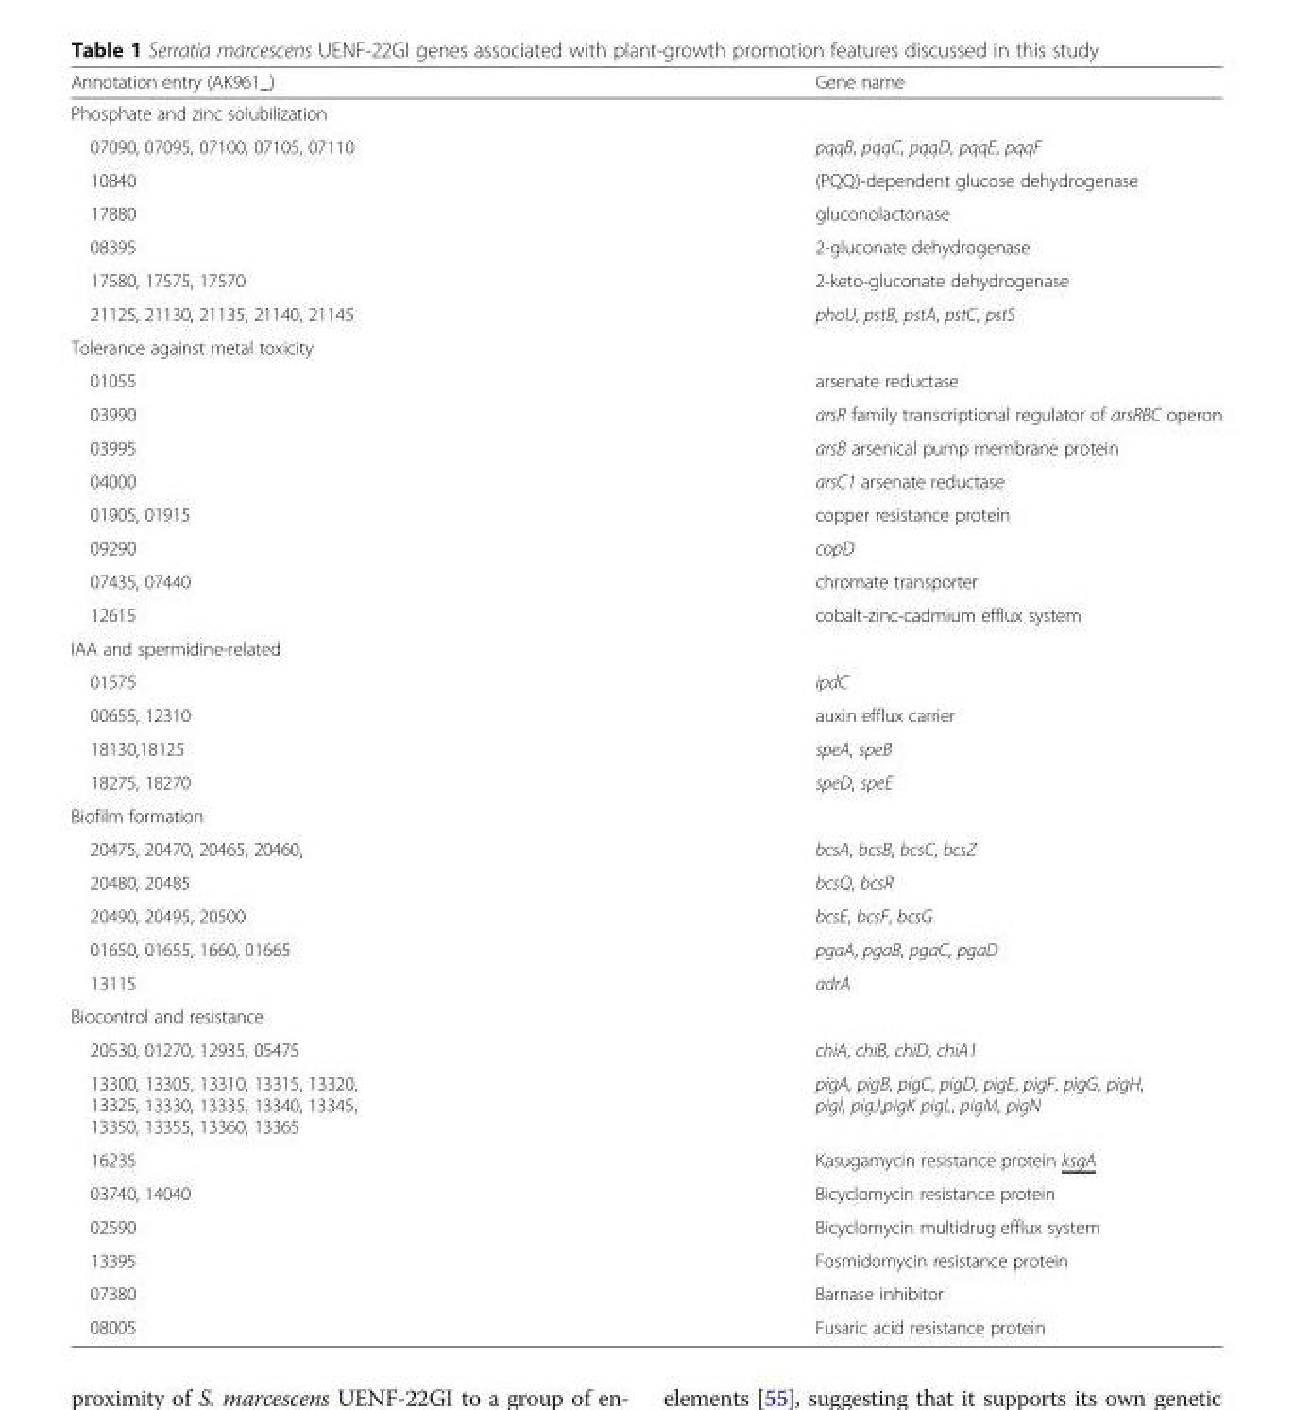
<table><thead><tr><td>Annotation entry (AK961_)</td><td>Gene name</td></tr></thead><tbody><tr><td colspan="2">Phosphate and zinc solubilization</td></tr><tr><td>07090, 07095, 07100, 07105, 07110</td><td>pqqB, pqqC, pqqD, pqqE, pqqF</td></tr><tr><td>10840</td><td>(PQQ)-dependent glucose dehydrogenase</td></tr><tr><td>17880</td><td>gluconolactonase</td></tr><tr><td>08395</td><td>2-gluconate dehydrogenase</td></tr><tr><td>17580, 17575, 17570</td><td>2-keto-gluconate dehydrogenase</td></tr><tr><td>21125, 21130, 21135, 21140, 21145</td><td>phoU, pstB, pstA, pstC, pstS</td></tr><tr><td colspan="2">Tolerance against metal toxicity</td></tr><tr><td>01055</td><td>arsenate reductase</td></tr><tr><td>03990</td><td>arsR family transcriptional regulator of arsRBC operon</td></tr><tr><td>03995</td><td>arsB arsenical pump membrane protein</td></tr><tr><td>04000</td><td>arsC1 arsenate reductase</td></tr><tr><td>01905, 01915</td><td>copper resistance protein</td></tr><tr><td>09290</td><td>copD</td></tr><tr><td>07435, 07440</td><td>chromate transporter</td></tr><tr><td>12615</td><td>cobalt-zinc-cadmium efflux system</td></tr><tr><td colspan="2">IAA and spermidine-related</td></tr><tr><td>01575</td><td>ipdC</td></tr><tr><td>00655, 12310</td><td>auxin efflux carrier</td></tr><tr><td>18130,18125</td><td>speA, speB</td></tr><tr><td>18275, 18270</td><td>speD, speE</td></tr><tr><td colspan="2">Biofilm formation</td></tr><tr><td>20475, 20470, 20465, 20460,</td><td>bcsA, bcsB, bcsC, bcsZ</td></tr><tr><td>20480, 20485</td><td>bcsQ, bcsR</td></tr><tr><td>20490, 20495, 20500</td><td>bcsE, bcsF, bcsG</td></tr><tr><td>01650, 01655, 1660, 01665</td><td>pgaA, pgaB, pgaC, pgaD</td></tr><tr><td>13115</td><td>adrA</td></tr><tr><td colspan="2">Biocontrol and resistance</td></tr><tr><td>20530, 01270, 12935, 05475</td><td>chiA, chiB, chiD, chiA1</td></tr><tr><td>13300, 13305, 13310, 13315, 13320, 13325, 13330, 13335, 13340, 13345, 13350, 13355, 13360, 13365</td><td>pigA, pigB, pigC, pigD, pigE, pigF, pigG, pigH, pigI, pigJ,pigK pigL, pigM, pigN</td></tr><tr><td>16235</td><td>Kasugamycin resistance protein ksgA</td></tr><tr><td>03740, 14040</td><td>Bicyclomycin resistance protein</td></tr><tr><td>02590</td><td>Bicyclomycin multidrug efflux system</td></tr><tr><td>13395</td><td>Fosmidomycin resistance protein</td></tr><tr><td>07380</td><td>Barnase inhibitor</td></tr><tr><td>08005</td><td>Fusaric acid resistance protein</td></tr></tbody></table>